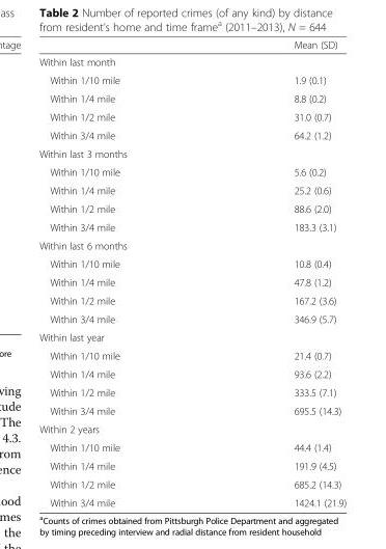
<table><thead><tr><td></td><td>Mean (SD)</td></tr></thead><tbody><tr><td colspan="2">Within last month</td></tr><tr><td>Within 1/10 mile</td><td>1.9 (0.1)</td></tr><tr><td>Within 1/4 mile</td><td>8.8 (0.2)</td></tr><tr><td>Within 1/2 mile</td><td>31.0 (0.7)</td></tr><tr><td>Within 3/4 mile</td><td>64.2 (1.2)</td></tr><tr><td colspan="2">Within last 3 months</td></tr><tr><td>Within 1/10 mile</td><td>5.6 (0.2)</td></tr><tr><td>Within 1/4 mile</td><td>25.2 (0.6)</td></tr><tr><td>Within 1/2 mile</td><td>88.6 (2.0)</td></tr><tr><td>Within 3/4 mile</td><td>183.3 (3.1)</td></tr><tr><td colspan="2">Within last 6 months</td></tr><tr><td>Within 1/10 mile</td><td>10.8 (0.4)</td></tr><tr><td>Within 1/4 mile</td><td>47.8 (1.2)</td></tr><tr><td>Within 1/2 mile</td><td>167.2 (3.6)</td></tr><tr><td>Within 3/4 mile</td><td>346.9 (5.7)</td></tr><tr><td colspan="2">Within last year</td></tr><tr><td>Within 1/10 mile</td><td>21.4 (0.7)</td></tr><tr><td>Within 1/4 mile</td><td>93.6 (2.2)</td></tr><tr><td>Within 1/2 mile</td><td>333.5 (7.1)</td></tr><tr><td>Within 3/4 mile</td><td>695.5 (14.3)</td></tr><tr><td colspan="2">Within 2 years</td></tr><tr><td>Within 1/10 mile</td><td>44.4 (1.4)</td></tr><tr><td>Within 1/4 mile</td><td>191.9 (4.5)</td></tr><tr><td>Within 1/2 mile</td><td>685.2 (14.3)</td></tr><tr><td>Within 3/4 mile</td><td>1424.1 (21.9)</td></tr></tbody></table>